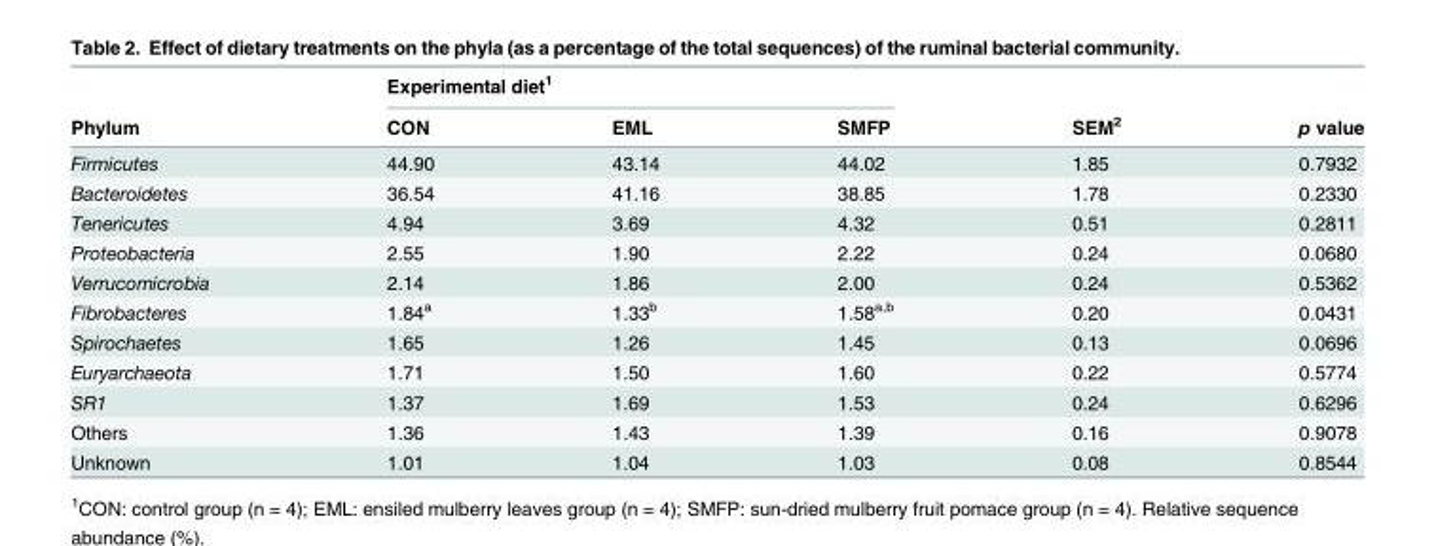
<table><thead><tr><td rowspan="2">Phylum</td><td colspan="3">Experimental diet<sup>1</sup></td><td rowspan="2">SEM<sup>2</sup></td><td rowspan="2">p value</td></tr><tr><td>CON</td><td>EML</td><td>SMFP</td></tr></thead><tbody><tr><td>Firmicutes</td><td>44.90</td><td>43.14</td><td>44.02</td><td>1.85</td><td>0.7932</td></tr><tr><td>Bacteroidetes</td><td>36.54</td><td>41.16</td><td>38.85</td><td>1.78</td><td>0.2330</td></tr><tr><td>Tenericutes</td><td>4.94</td><td>3.69</td><td>4.32</td><td>0.51</td><td>0.2811</td></tr><tr><td>Proteobacteria</td><td>2.55</td><td>1.90</td><td>2.22</td><td>0.24</td><td>0.0680</td></tr><tr><td>Verrucomicrobia</td><td>2.14</td><td>1.86</td><td>2.00</td><td>0.24</td><td>0.5362</td></tr><tr><td>Fibrobacteres</td><td>1.84<sup>a</sup></td><td>1.33<sup>b</sup></td><td>1.58<sup>a,b</sup></td><td>0.20</td><td>0.0431</td></tr><tr><td>Spirochaetes</td><td>1.65</td><td>1.26</td><td>1.45</td><td>0.13</td><td>0.0696</td></tr><tr><td>Euryarchaeota</td><td>1.71</td><td>1.50</td><td>1.60</td><td>0.22</td><td>0.5774</td></tr><tr><td>SR1</td><td>1.37</td><td>1.69</td><td>1.53</td><td>0.24</td><td>0.6296</td></tr><tr><td>Others</td><td>1.36</td><td>1.43</td><td>1.39</td><td>0.16</td><td>0.9078</td></tr><tr><td>Unknown</td><td>1.01</td><td>1.04</td><td>1.03</td><td>0.08</td><td>0.8544</td></tr></tbody></table>